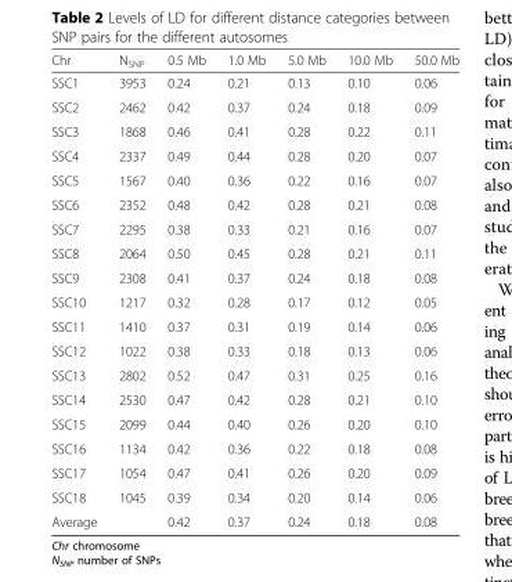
<table><thead><tr><td>Chr</td><td>N<sub>SNP</sub></td><td>0.5 Mb</td><td>1.0 Mb</td><td>5.0 Mb</td><td>10.0 Mb</td><td>50.0 Mb</td></tr></thead><tbody><tr><td>SSC1</td><td>3953</td><td>0.24</td><td>0.21</td><td>0.13</td><td>0.10</td><td>0.06</td></tr><tr><td>SSC2</td><td>2462</td><td>0.42</td><td>0.37</td><td>0.24</td><td>0.18</td><td>0.09</td></tr><tr><td>SSC3</td><td>1868</td><td>0.46</td><td>0.41</td><td>0.28</td><td>0.22</td><td>0.11</td></tr><tr><td>SSC4</td><td>2337</td><td>0.49</td><td>0.44</td><td>0.28</td><td>0.20</td><td>0.07</td></tr><tr><td>SSC5</td><td>1567</td><td>0.40</td><td>0.36</td><td>0.22</td><td>0.16</td><td>0.07</td></tr><tr><td>SSC6</td><td>2352</td><td>0.48</td><td>0.42</td><td>0.28</td><td>0.21</td><td>0.08</td></tr><tr><td>SSC7</td><td>2295</td><td>0.38</td><td>0.33</td><td>0.21</td><td>0.16</td><td>0.07</td></tr><tr><td>SSC8</td><td>2064</td><td>0.50</td><td>0.45</td><td>0.28</td><td>0.21</td><td>0.11</td></tr><tr><td>SSC9</td><td>2308</td><td>0.41</td><td>0.37</td><td>0.24</td><td>0.18</td><td>0.08</td></tr><tr><td>SSC10</td><td>1217</td><td>0.32</td><td>0.28</td><td>0.17</td><td>0.12</td><td>0.05</td></tr><tr><td>SSC11</td><td>1410</td><td>0.37</td><td>0.31</td><td>0.19</td><td>0.14</td><td>0.06</td></tr><tr><td>SSC12</td><td>1022</td><td>0.38</td><td>0.33</td><td>0.18</td><td>0.13</td><td>0.06</td></tr><tr><td>SSC13</td><td>2802</td><td>0.52</td><td>0.47</td><td>0.31</td><td>0.25</td><td>0.16</td></tr><tr><td>SSC14</td><td>2530</td><td>0.47</td><td>0.42</td><td>0.28</td><td>0.21</td><td>0.10</td></tr><tr><td>SSC15</td><td>2099</td><td>0.44</td><td>0.40</td><td>0.26</td><td>0.20</td><td>0.10</td></tr><tr><td>SSC16</td><td>1134</td><td>0.42</td><td>0.36</td><td>0.22</td><td>0.18</td><td>0.08</td></tr><tr><td>SSC17</td><td>1054</td><td>0.47</td><td>0.41</td><td>0.26</td><td>0.20</td><td>0.09</td></tr><tr><td>SSC18</td><td>1045</td><td>0.39</td><td>0.34</td><td>0.20</td><td>0.14</td><td>0.06</td></tr><tr><td>Average</td><td></td><td>0.42</td><td>0.37</td><td>0.24</td><td>0.18</td><td>0.08</td></tr></tbody></table>